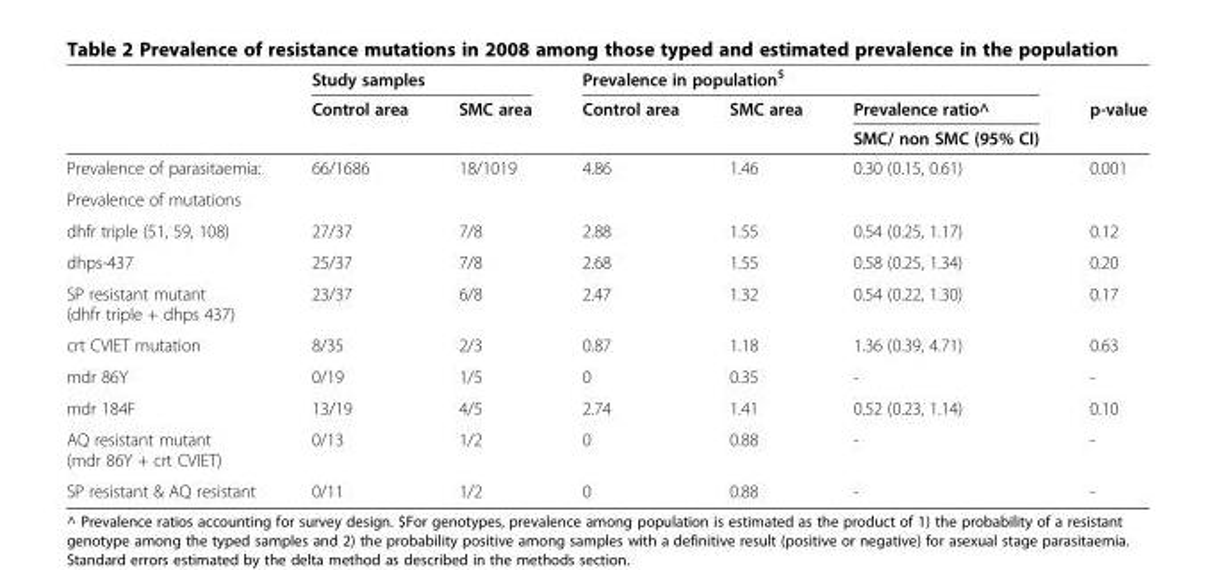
<table><thead><tr><td rowspan="3"></td><td colspan="2">Study samples</td><td colspan="3">Prevalence in population<sup>$</sup></td><td rowspan="3">p-value</td></tr><tr><td rowspan="2">Control area</td><td rowspan="2">SMC area</td><td rowspan="2">Control area</td><td rowspan="2">SMC area</td><td rowspan="2">Prevalence ratio^ SMC/ non SMC (95% CI)</td></tr><tr></tr></thead><tbody><tr><td>Prevalence of parasitaemia:</td><td>66/1686</td><td>18/1019</td><td>4.86</td><td>1.46</td><td>0.30 (0.15, 0.61)</td><td>0.001</td></tr><tr><td colspan="7">Prevalence of mutations</td></tr><tr><td>dhfr triple (51, 59, 108)</td><td>27/37</td><td>7/8</td><td>2.88</td><td>1.55</td><td>0.54 (0.25, 1.17)</td><td>0.12</td></tr><tr><td>dhps-437</td><td>25/37</td><td>7/8</td><td>2.68</td><td>1.55</td><td>0.58 (0.25, 1.34)</td><td>0.20</td></tr><tr><td>SP resistant mutant (dhfr triple + dhps 437)</td><td>23/37</td><td>6/8</td><td>2.47</td><td>1.32</td><td>0.54 (0.22, 1.30)</td><td>0.17</td></tr><tr><td>crt CVIET mutation</td><td>8/35</td><td>2/3</td><td>0.87</td><td>1.18</td><td>1.36 (0.39, 4.71)</td><td>0.63</td></tr><tr><td>mdr 86Y</td><td>0/19</td><td>1/5</td><td>0</td><td>0.35</td><td>-</td><td>-</td></tr><tr><td>mdr 184F</td><td>13/19</td><td>4/5</td><td>2.74</td><td>1.41</td><td>0.52 (0.23, 1.14)</td><td>0.10</td></tr><tr><td>AQ resistant mutant (mdr 86Y + crt CVIET)</td><td>0/13</td><td>1/2</td><td>0</td><td>0.88</td><td>-</td><td>-</td></tr><tr><td>SP resistant &amp; AQ resistant</td><td>0/11</td><td>1/2</td><td>0</td><td>0.88</td><td>-</td><td>-</td></tr></tbody></table>